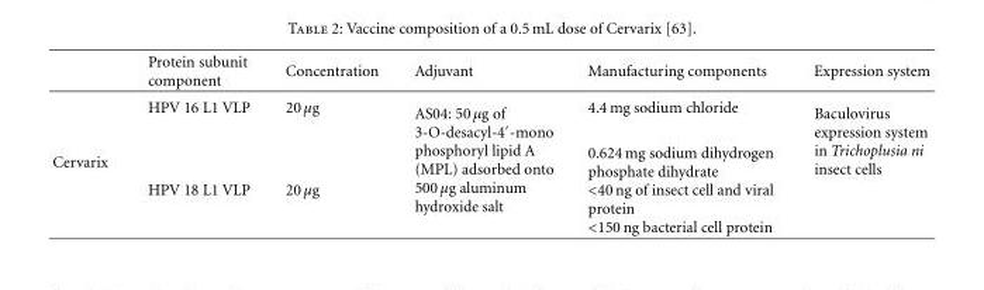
<table><thead><tr><td></td><td>Protein subunit component</td><td>Concentration</td><td>Adjuvant</td><td>Manufacturing components</td><td>Expression system</td></tr></thead><tbody><tr><td rowspan="2">Cervarix</td><td>HPV 16 L1 VLP</td><td>20 µg</td><td rowspan="2">AS04: 50 µg of 3-O-desacyl-4′-mono phosphoryl lipid A (MPL) adsorbed onto 500 µg aluminum hydroxide salt</td><td>4.4 mg sodium chloride</td><td rowspan="2">Baculovirus expression system in Trichoplusia ni insect cells</td></tr><tr><td>HPV 18 L1 VLP</td><td>20 µg</td><td>0.624 mg sodium dihydrogen phosphate dihydrate &lt;40 ng of insect cell and viral protein &lt;150 ng bacterial cell protein</td></tr></tbody></table>